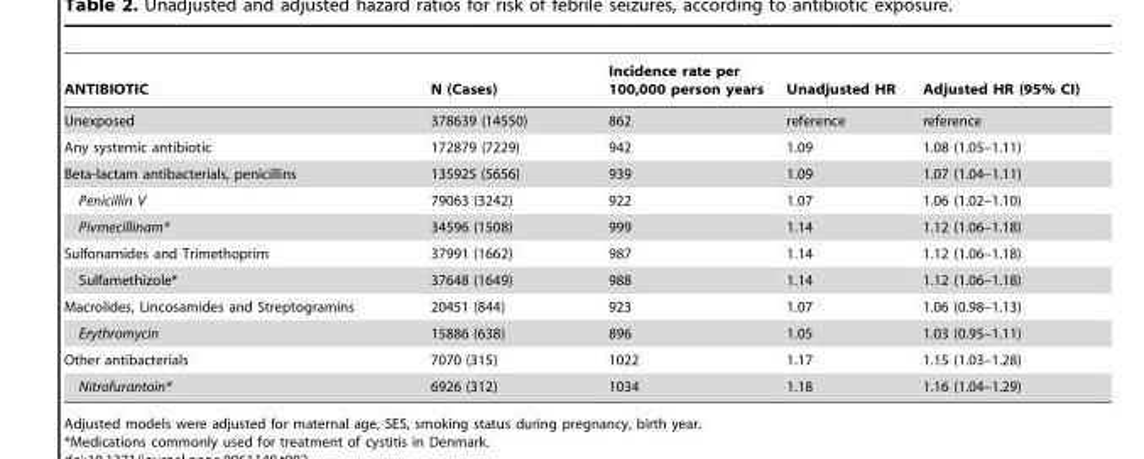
<table><thead><tr><td>ANTIBIOTIC</td><td>N (Cases)</td><td>Incidence rate per 100,000 person years</td><td>Unadjusted HR</td><td>Adjusted HR (95% CI)</td></tr></thead><tbody><tr><td>Unexposed</td><td>378639 (14550)</td><td>862</td><td>reference</td><td>reference</td></tr><tr><td>Any systemic antibiotic</td><td>172879 (7229)</td><td>942</td><td>1.09</td><td>1.08 (1.05–1.11)</td></tr><tr><td>Beta-lactam antibacterials, penicillins</td><td>135925 (5656)</td><td>939</td><td>1.09</td><td>1.07 (1.04–1.11)</td></tr><tr><td>Penicillin V</td><td>79063 (3242)</td><td>922</td><td>1.07</td><td>1.06 (1.02–1.10)</td></tr><tr><td>Pivmecillinam*</td><td>34596 (1508)</td><td>999</td><td>1.14</td><td>1.12 (1.06–1.18)</td></tr><tr><td>Sulfonamides and Trimethoprim</td><td>37991 (1662)</td><td>987</td><td>1.14</td><td>1.12 (1.06–1.18)</td></tr><tr><td>Sulfamethizole*</td><td>37648 (1649)</td><td>988</td><td>1.14</td><td>1.12 (1.06–1.18)</td></tr><tr><td>Macrolides, Lincosamides and Streptogramins</td><td>20451 (844)</td><td>923</td><td>1.07</td><td>1.06 (0.98–1.13)</td></tr><tr><td>Erythromycin</td><td>15886 (638)</td><td>896</td><td>1.05</td><td>1.03 (0.95–1.11)</td></tr><tr><td>Other antibacterials</td><td>7070 (315)</td><td>1022</td><td>1.17</td><td>1.15 (1.03–1.28)</td></tr><tr><td>Nitrofurantoin*</td><td>6926 (312)</td><td>1034</td><td>1.18</td><td>1.16 (1.04–1.29)</td></tr></tbody></table>